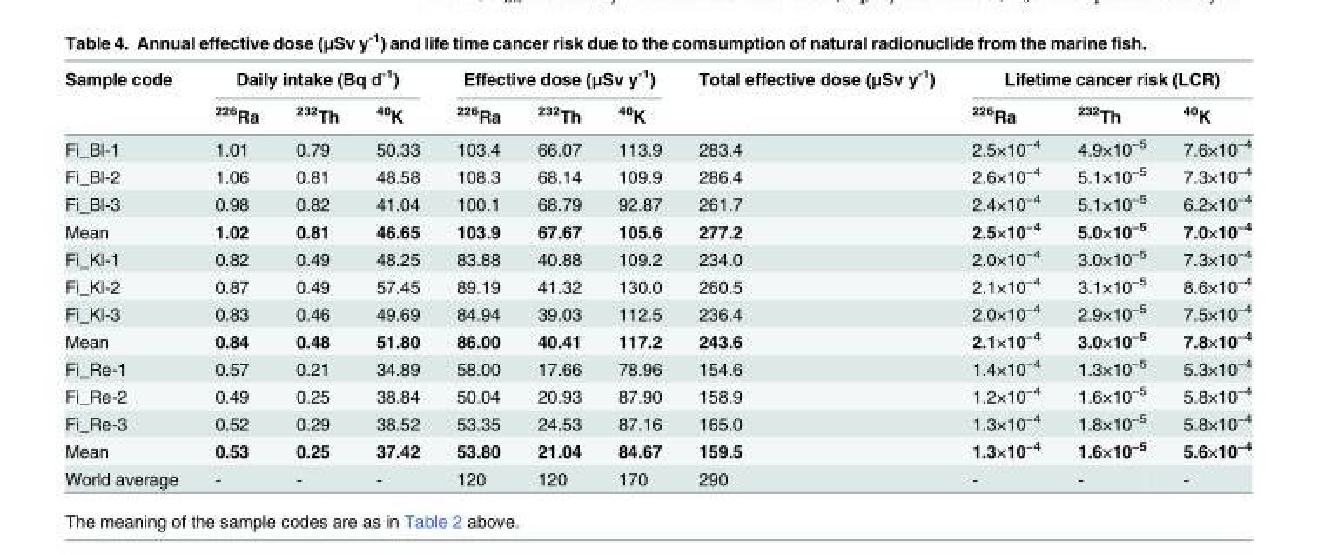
<table><thead><tr><td rowspan="2">Sample code</td><td colspan="3">Daily intake (Bq d<sup>-1</sup>)</td><td colspan="3">Effective dose (μSv y<sup>-1</sup>)</td><td rowspan="2">Total effective dose (μSv y<sup>-1</sup>)</td><td colspan="3">Lifetime cancer risk (LCR)</td></tr><tr><td><sup>226</sup>Ra</td><td><sup>232</sup>Th</td><td><sup>40</sup>K</td><td><sup>226</sup>Ra</td><td><sup>232</sup>Th</td><td><sup>40</sup>K</td><td><sup>226</sup>Ra</td><td><sup>232</sup>Th</td><td><sup>40</sup>K</td></tr></thead><tbody><tr><td>Fi_Bl-1</td><td>1.01</td><td>0.79</td><td>50.33</td><td>103.4</td><td>66.07</td><td>113.9</td><td>283.4</td><td>2.5×10<sup>−4</sup></td><td>4.9×10<sup>−5</sup></td><td>7.6×10<sup>−4</sup></td></tr><tr><td>Fi_Bl-2</td><td>1.06</td><td>0.81</td><td>48.58</td><td>108.3</td><td>68.14</td><td>109.9</td><td>286.4</td><td>2.6×10<sup>−4</sup></td><td>5.1×10<sup>−5</sup></td><td>7.3×10<sup>−4</sup></td></tr><tr><td>Fi_Bl-3</td><td>0.98</td><td>0.82</td><td>41.04</td><td>100.1</td><td>68.79</td><td>92.87</td><td>261.7</td><td>2.4×10<sup>−4</sup></td><td>5.1×10<sup>−5</sup></td><td>6.2×10<sup>−4</sup></td></tr><tr><td>Mean</td><td>1.02</td><td>0.81</td><td>46.65</td><td>103.9</td><td>67.67</td><td>105.6</td><td>277.2</td><td>2.5×10<sup>−4</sup></td><td>5.0×10<sup>−5</sup></td><td>7.0×10<sup>−4</sup></td></tr><tr><td>Fi_Kl-1</td><td>0.82</td><td>0.49</td><td>48.25</td><td>83.88</td><td>40.88</td><td>109.2</td><td>234.0</td><td>2.0×10<sup>−4</sup></td><td>3.0×10<sup>−5</sup></td><td>7.3×10<sup>−4</sup></td></tr><tr><td>Fi_Kl-2</td><td>0.87</td><td>0.49</td><td>57.45</td><td>89.19</td><td>41.32</td><td>130.0</td><td>260.5</td><td>2.1×10<sup>−4</sup></td><td>3.1×10<sup>−5</sup></td><td>8.6×10<sup>−4</sup></td></tr><tr><td>Fi_Kl-3</td><td>0.83</td><td>0.46</td><td>49.69</td><td>84.94</td><td>39.03</td><td>112.5</td><td>236.4</td><td>2.0×10<sup>−4</sup></td><td>2.9×10<sup>−5</sup></td><td>7.5×10<sup>−4</sup></td></tr><tr><td>Mean</td><td>0.84</td><td>0.48</td><td>51.80</td><td>86.00</td><td>40.41</td><td>117.2</td><td>243.6</td><td>2.1×10<sup>−4</sup></td><td>3.0×10<sup>−5</sup></td><td>7.8×10<sup>−4</sup></td></tr><tr><td>Fi_Re-1</td><td>0.57</td><td>0.21</td><td>34.89</td><td>58.00</td><td>17.66</td><td>78.96</td><td>154.6</td><td>1.4×10<sup>−4</sup></td><td>1.3×10<sup>−5</sup></td><td>5.3×10<sup>−4</sup></td></tr><tr><td>Fi_Re-2</td><td>0.49</td><td>0.25</td><td>38.84</td><td>50.04</td><td>20.93</td><td>87.90</td><td>158.9</td><td>1.2×10<sup>−4</sup></td><td>1.6×10<sup>−5</sup></td><td>5.8×10<sup>−4</sup></td></tr><tr><td>Fi_Re-3</td><td>0.52</td><td>0.29</td><td>38.52</td><td>53.35</td><td>24.53</td><td>87.16</td><td>165.0</td><td>1.3×10<sup>−4</sup></td><td>1.8×10<sup>−5</sup></td><td>5.8×10<sup>−4</sup></td></tr><tr><td>Mean</td><td>0.53</td><td>0.25</td><td>37.42</td><td>53.80</td><td>21.04</td><td>84.67</td><td>159.5</td><td>1.3×10<sup>−4</sup></td><td>1.6×10<sup>−5</sup></td><td>5.6×10<sup>−4</sup></td></tr><tr><td>World average</td><td>-</td><td>-</td><td>-</td><td>120</td><td>120</td><td>170</td><td>290</td><td>-</td><td>-</td><td>-</td></tr></tbody></table>